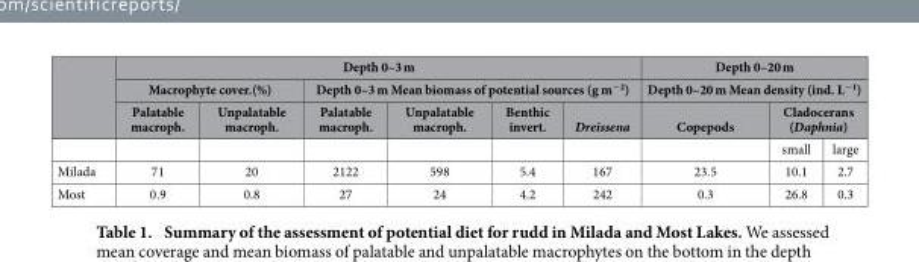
<table><thead><tr><td rowspan="4"></td><td colspan="6">Depth 0–3 m</td><td rowspan="2" colspan="3">Depth 0–20 m Depth 0–20 m Mean density (ind. L<sup>−1</sup>)</td></tr><tr><td colspan="2">Macrophyte cover.(%)</td><td colspan="4">Depth 0–3 m Mean biomass of potential sources (g m<sup>−2</sup>)</td></tr><tr><td rowspan="2">Palatable macroph.</td><td rowspan="2">Unpalatable macroph.</td><td rowspan="2">Palatable macroph.</td><td rowspan="2">Unpalatable macroph.</td><td rowspan="2">Benthic invert.</td><td rowspan="2">Dreissena</td><td rowspan="2">Copepods</td><td colspan="2">Cladocerans (Daphnia)</td></tr><tr><td>small</td><td>large</td></tr></thead><tbody><tr><td>Milada</td><td>71</td><td>20</td><td>2122</td><td>598</td><td>5.4</td><td>167</td><td>23.5</td><td>10.1</td><td>2.7</td></tr><tr><td>Most</td><td>0.9</td><td>0.8</td><td>27</td><td>24</td><td>4.2</td><td>242</td><td>0.3</td><td>26.8</td><td>0.3</td></tr></tbody></table>